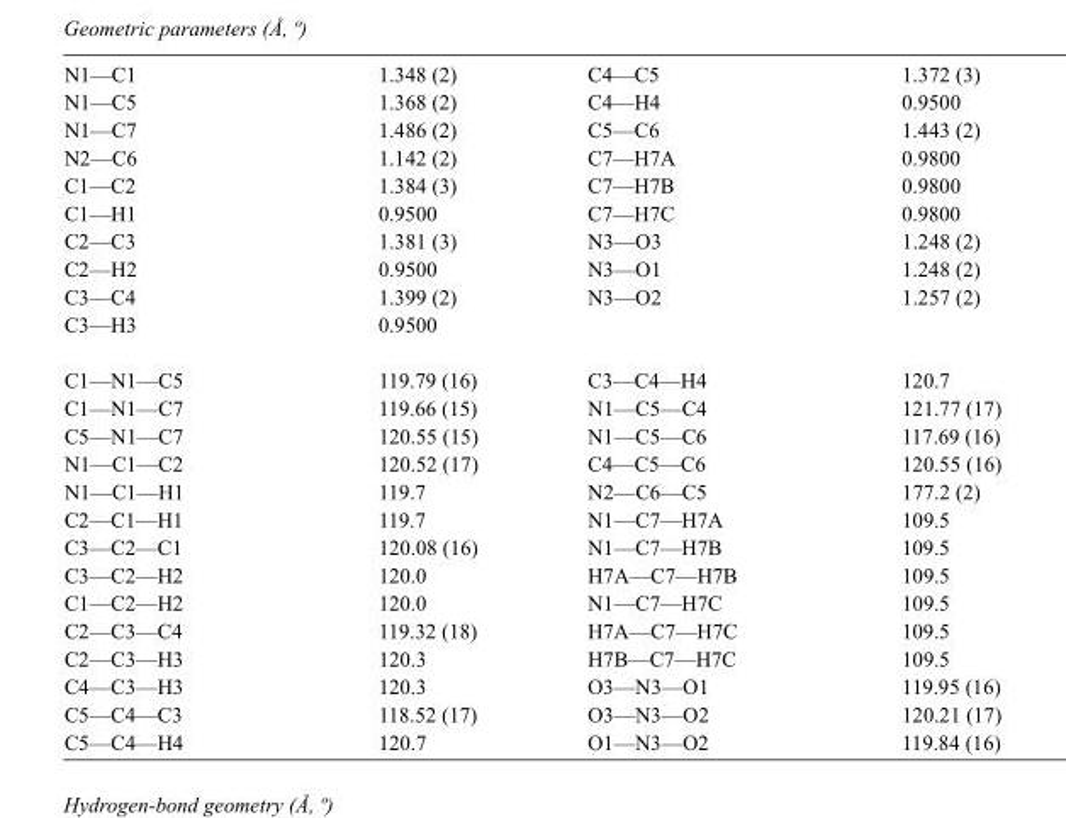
<table><tbody><tr><td>N1—C1</td><td>1.348 (2)</td><td>C4—C5</td><td>1.372 (3)</td></tr><tr><td>N1—C5</td><td>1.368 (2)</td><td>C4—H4</td><td>0.9500</td></tr><tr><td>N1—C7</td><td>1.486 (2)</td><td>C5—C6</td><td>1.443 (2)</td></tr><tr><td>N2—C6</td><td>1.142 (2)</td><td>C7—H7A</td><td>0.9800</td></tr><tr><td>C1—C2</td><td>1.384 (3)</td><td>C7—H7B</td><td>0.9800</td></tr><tr><td>C1—H1</td><td>0.9500</td><td>C7—H7C</td><td>0.9800</td></tr><tr><td>C2—C3</td><td>1.381 (3)</td><td>N3—O3</td><td>1.248 (2)</td></tr><tr><td>C2—H2</td><td>0.9500</td><td>N3—O1</td><td>1.248 (2)</td></tr><tr><td>C3—C4</td><td>1.399 (2)</td><td>N3—O2</td><td>1.257 (2)</td></tr><tr><td>C3—H3</td><td>0.9500</td><td></td><td></td></tr><tr><td>C1—N1—C5</td><td>119.79 (16)</td><td>C3—C4—H4</td><td>120.7</td></tr><tr><td>C1—N1—C7</td><td>119.66 (15)</td><td>N1—C5—C4</td><td>121.77 (17)</td></tr><tr><td>C5—N1—C7</td><td>120.55 (15)</td><td>N1—C5—C6</td><td>117.69 (16)</td></tr><tr><td>N1—C1—C2</td><td>120.52 (17)</td><td>C4—C5—C6</td><td>120.55 (16)</td></tr><tr><td>N1—C1—H1</td><td>119.7</td><td>N2—C6—C5</td><td>177.2 (2)</td></tr><tr><td>C2—C1—H1</td><td>119.7</td><td>N1—C7—H7A</td><td>109.5</td></tr><tr><td>C3—C2—C1</td><td>120.08 (16)</td><td>N1—C7—H7B</td><td>109.5</td></tr><tr><td>C3—C2—H2</td><td>120.0</td><td>H7A—C7—H7B</td><td>109.5</td></tr><tr><td>C1—C2—H2</td><td>120.0</td><td>N1—C7—H7C</td><td>109.5</td></tr><tr><td>C2—C3—C4</td><td>119.32 (18)</td><td>H7A—C7—H7C</td><td>109.5</td></tr><tr><td>C2—C3—H3</td><td>120.3</td><td>H7B—C7—H7C</td><td>109.5</td></tr><tr><td>C4—C3—H3</td><td>120.3</td><td>O3—N3—O1</td><td>119.95 (16)</td></tr><tr><td>C5—C4—C3</td><td>118.52 (17)</td><td>O3—N3—O2</td><td>120.21 (17)</td></tr><tr><td>C5—C4—H4</td><td>120.7</td><td>O1—N3—O2</td><td>119.84 (16)</td></tr></tbody></table>